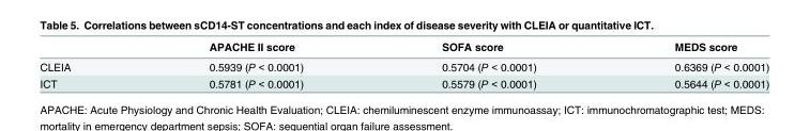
<table><thead><tr><td></td><td>APACHE II score</td><td>SOFA score</td><td>MEDS score</td></tr></thead><tbody><tr><td>CLEIA</td><td>0.5939 (P &lt; 0.0001)</td><td>0.5704 (P &lt; 0.0001)</td><td>0.6369 (P &lt; 0.0001)</td></tr><tr><td>ICT</td><td>0.5781 (P &lt; 0.0001)</td><td>0.5579 (P &lt; 0.0001)</td><td>0.5644 (P &lt; 0.0001)</td></tr></tbody></table>